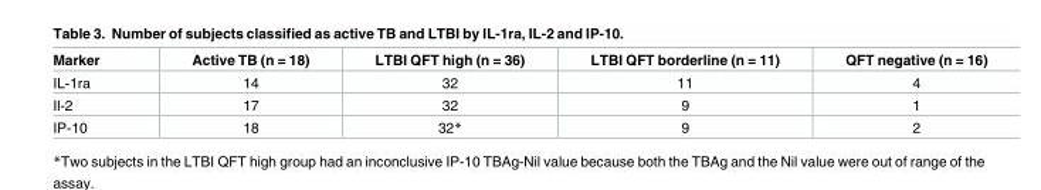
<table><thead><tr><td>Marker</td><td>Active TB (n = 18)</td><td>LTBI QFT high (n = 36)</td><td>LTBI QFT borderline (n = 11)</td><td>QFT negative (n = 16)</td></tr></thead><tbody><tr><td>IL-1ra</td><td>14</td><td>32</td><td>11</td><td>4</td></tr><tr><td>Il-2</td><td>17</td><td>32</td><td>9</td><td>1</td></tr><tr><td>IP-10</td><td>18</td><td>32*</td><td>9</td><td>2</td></tr></tbody></table>